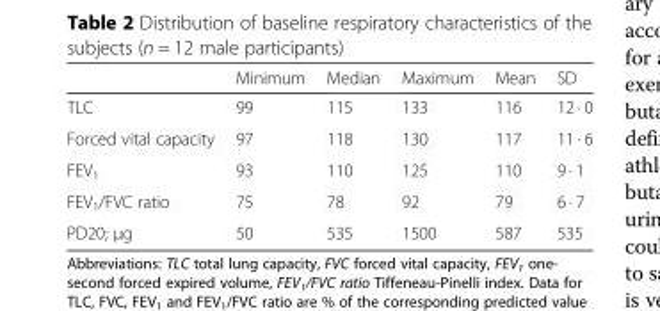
<table><thead><tr><td></td><td>Minimum</td><td>Median</td><td>Maximum</td><td>Mean</td><td>SD</td></tr></thead><tbody><tr><td>TLC</td><td>99</td><td>115</td><td>133</td><td>116</td><td>12 · 0</td></tr><tr><td>Forced vital capacity</td><td>97</td><td>118</td><td>130</td><td>117</td><td>11 · 6</td></tr><tr><td>FEV<sub>1</sub></td><td>93</td><td>110</td><td>125</td><td>110</td><td>9 · 1</td></tr><tr><td>FEV<sub>1</sub>/FVC ratio</td><td>75</td><td>78</td><td>92</td><td>79</td><td>6 · 7</td></tr><tr><td>PD20; μg</td><td>50</td><td>535</td><td>1500</td><td>587</td><td>535</td></tr></tbody></table>